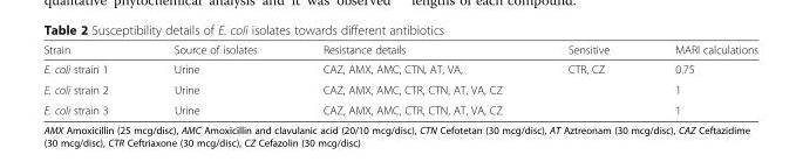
<table><thead><tr><td>Strain</td><td>Source of isolates</td><td>Resistance details</td><td>Sensitive</td><td>MARI calculations</td></tr></thead><tbody><tr><td>E. coli strain 1</td><td>Urine</td><td>CAZ, AMX, AMC, CTN, AT, VA,</td><td>CTR, CZ</td><td>0.75</td></tr><tr><td>E. coli strain 2</td><td>Urine</td><td>CAZ, AMX, AMC, CTR, CTN, AT, VA, CZ</td><td></td><td>1</td></tr><tr><td>E. coli strain 3</td><td>Urine</td><td>CAZ, AMX, AMC, CTR, CTN, AT, VA, CZ</td><td></td><td>1</td></tr></tbody></table>